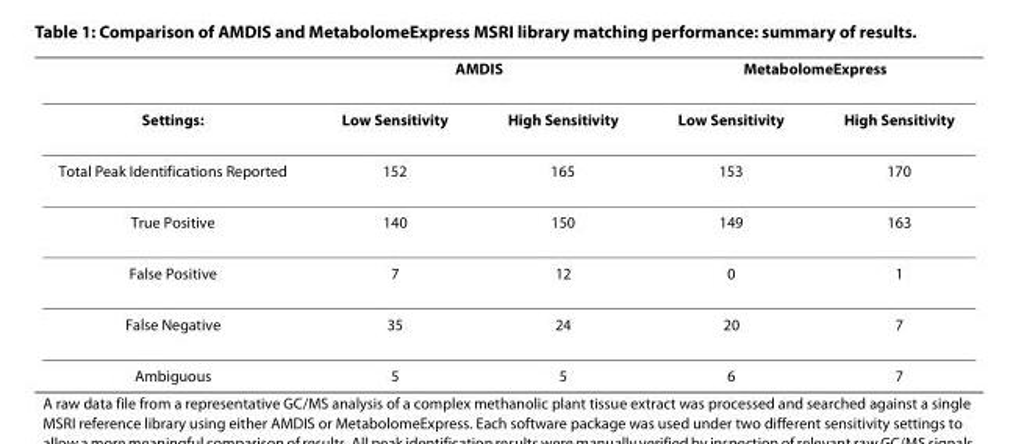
<table><thead><tr><td rowspan="2">Settings:</td><td colspan="2">AMDIS</td><td colspan="2">MetabolomeExpress</td></tr><tr><td>Low Sensitivity</td><td>High Sensitivity</td><td>Low Sensitivity</td><td>High Sensitivity</td></tr></thead><tbody><tr><td>Total Peak Identifications Reported</td><td>152</td><td>165</td><td>153</td><td>170</td></tr><tr><td>True Positive</td><td>140</td><td>150</td><td>149</td><td>163</td></tr><tr><td>False Positive</td><td>7</td><td>12</td><td>0</td><td>1</td></tr><tr><td>False Negative</td><td>35</td><td>24</td><td>20</td><td>7</td></tr><tr><td>Ambiguous</td><td>5</td><td>5</td><td>6</td><td>7</td></tr></tbody></table>